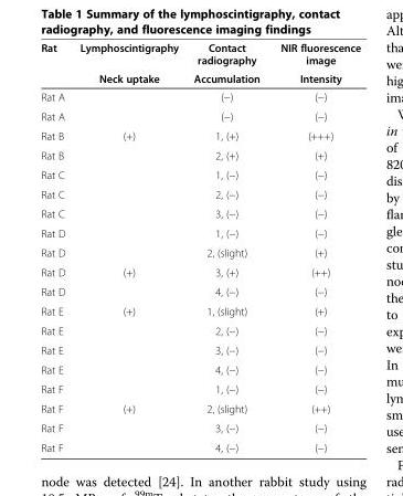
<table><thead><tr><td rowspan="2">Rat</td><td rowspan="2">Lymphoscintigraphy Neck uptake</td><td rowspan="2">Contact radiography Accumulation</td><td rowspan="2">NIR fluorescence image Intensity</td></tr><tr></tr></thead><tbody><tr><td>Rat A</td><td></td><td>(−)</td><td>(−)</td></tr><tr><td>Rat A</td><td></td><td>(−)</td><td>(−)</td></tr><tr><td>Rat B</td><td>(+)</td><td>1, (+)</td><td>(+++)</td></tr><tr><td>Rat B</td><td></td><td>2, (+)</td><td>(+)</td></tr><tr><td>Rat C</td><td></td><td>1, (−)</td><td>(−)</td></tr><tr><td>Rat C</td><td></td><td>2, (−)</td><td>(−)</td></tr><tr><td>Rat C</td><td></td><td>3, (−)</td><td>(−)</td></tr><tr><td>Rat D</td><td></td><td>1, (−)</td><td>(−)</td></tr><tr><td>Rat D</td><td></td><td>2, (slight)</td><td>(+)</td></tr><tr><td>Rat D</td><td>(+)</td><td>3, (+)</td><td>(++)</td></tr><tr><td>Rat D</td><td></td><td>4, (−)</td><td>(−)</td></tr><tr><td>Rat E</td><td>(+)</td><td>1, (slight)</td><td>(+)</td></tr><tr><td>Rat E</td><td></td><td>2, (−)</td><td>(−)</td></tr><tr><td>Rat E</td><td></td><td>3, (−)</td><td>(−)</td></tr><tr><td>Rat E</td><td></td><td>4, (−)</td><td>(−)</td></tr><tr><td>Rat F</td><td></td><td>1, (−)</td><td>(−)</td></tr><tr><td>Rat F</td><td>(+)</td><td>2, (slight)</td><td>(++)</td></tr><tr><td>Rat F</td><td></td><td>3, (−)</td><td>(−)</td></tr><tr><td>Rat F</td><td></td><td>4, (−)</td><td>(−)</td></tr></tbody></table>